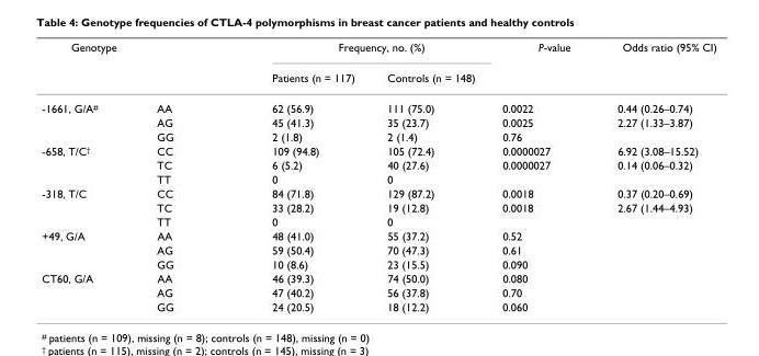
<table><thead><tr><td rowspan="2">Genotype</td><td rowspan="2"></td><td colspan="2">Frequency, no. (%)</td><td rowspan="2">P-value</td><td rowspan="2">Odds ratio (95% CI)</td></tr><tr><td>Patients (n = 117)</td><td>Controls (n = 148)</td></tr></thead><tbody><tr><td rowspan="3">-1661, G/A<sup>#</sup></td><td>AA</td><td>62 (56.9)</td><td>111 (75.0)</td><td>0.0022</td><td>0.44 (0.26–0.74)</td></tr><tr><td>AG</td><td>45 (41.3)</td><td>35 (23.7)</td><td>0.0025</td><td>2.27 (1.33–3.87)</td></tr><tr><td>GG</td><td>2 (1.8)</td><td>2 (1.4)</td><td>0.76</td><td></td></tr><tr><td rowspan="3">-658, T/C<sup>†</sup></td><td>CC</td><td>109 (94.8)</td><td>105 (72.4)</td><td>0.0000027</td><td>6.92 (3.08–15.52)</td></tr><tr><td>TC</td><td>6 (5.2)</td><td>40 (27.6)</td><td>0.0000027</td><td>0.14 (0.06–0.32)</td></tr><tr><td>TT</td><td>0</td><td>0</td><td></td><td></td></tr><tr><td rowspan="3">-318, T/C</td><td>CC</td><td>84 (71.8)</td><td>129 (87.2)</td><td>0.0018</td><td>0.37 (0.20–0.69)</td></tr><tr><td>TC</td><td>33 (28.2)</td><td>19 (12.8)</td><td>0.0018</td><td>2.67 (1.44–4.93)</td></tr><tr><td>TT</td><td>0</td><td>0</td><td></td><td></td></tr><tr><td rowspan="3">+49, G/A</td><td>AA</td><td>48 (41.0)</td><td>55 (37.2)</td><td>0.52</td><td></td></tr><tr><td>AG</td><td>59 (50.4)</td><td>70 (47.3)</td><td>0.61</td><td></td></tr><tr><td>GG</td><td>10 (8.6)</td><td>23 (15.5)</td><td>0.090</td><td></td></tr><tr><td rowspan="3">CT60, G/A</td><td>AA</td><td>46 (39.3)</td><td>74 (50.0)</td><td>0.080</td><td></td></tr><tr><td>AG</td><td>47 (40.2)</td><td>56 (37.8)</td><td>0.70</td><td></td></tr><tr><td>GG</td><td>24 (20.5)</td><td>18 (12.2)</td><td>0.060</td><td></td></tr></tbody></table>